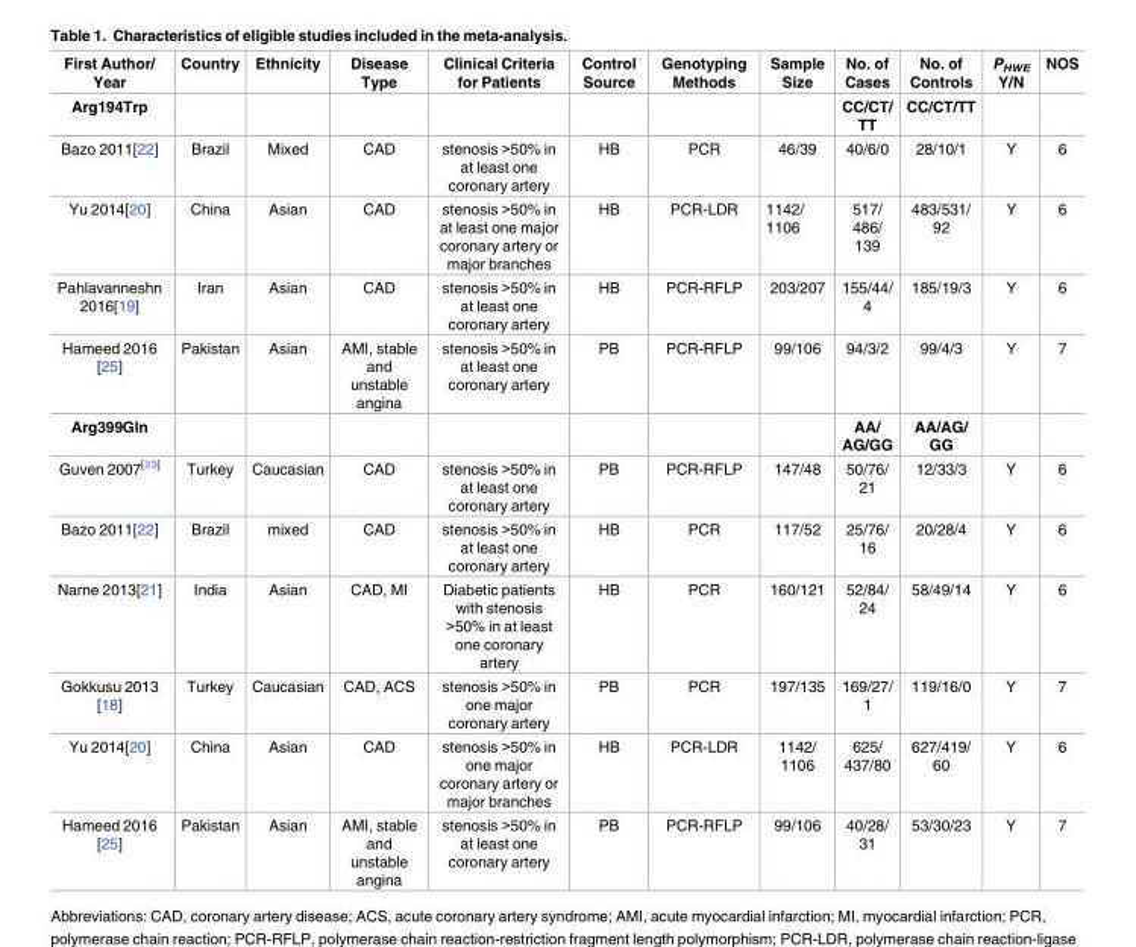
<table><thead><tr><td>First Author/ Year</td><td>Country</td><td>Ethnicity</td><td>Disease Type</td><td>Clinical Criteria for Patients</td><td>Control Source</td><td>Genotyping Methods</td><td>Sample Size</td><td>No. of Cases</td><td>No. of Controls</td><td>P<sub>HWE</sub> Y/N</td><td>NOS</td></tr></thead><tbody><tr><td>Arg194Trp</td><td></td><td></td><td></td><td></td><td></td><td></td><td></td><td>CC/CT/ TT</td><td>CC/CT/TT</td><td></td><td></td></tr><tr><td>Bazo 2011[22]</td><td>Brazil</td><td>Mixed</td><td>CAD</td><td>stenosis &gt;50% in at least one coronary artery</td><td>HB</td><td>PCR</td><td>46/39</td><td>40/6/0</td><td>28/10/1</td><td>Y</td><td>6</td></tr><tr><td>Yu 2014[20]</td><td>China</td><td>Asian</td><td>CAD</td><td>stenosis &gt;50% in at least one major coronary artery or major branches</td><td>HB</td><td>PCR-LDR</td><td>1142/ 1106</td><td>517/ 486/ 139</td><td>483/531/ 92</td><td>Y</td><td>6</td></tr><tr><td>Pahlavanneshn 2016[19]</td><td>Iran</td><td>Asian</td><td>CAD</td><td>stenosis &gt;50% in at least one coronary artery</td><td>HB</td><td>PCR-RFLP</td><td>203/207</td><td>155/44/ 4</td><td>185/19/3</td><td>Y</td><td>6</td></tr><tr><td>Hameed 2016 [25]</td><td>Pakistan</td><td>Asian</td><td>AMI, stable and unstable angina</td><td>stenosis &gt;50% in at least one coronary artery</td><td>PB</td><td>PCR-RFLP</td><td>99/106</td><td>94/3/2</td><td>99/4/3</td><td>Y</td><td>7</td></tr><tr><td>Arg399Gln</td><td></td><td></td><td></td><td></td><td></td><td></td><td></td><td>AA/ AG/GG</td><td>AA/AG/ GG</td><td></td><td></td></tr><tr><td>Guven 2007<sup>[23]</sup></td><td>Turkey</td><td>Caucasian</td><td>CAD</td><td>stenosis &gt;50% in at least one coronary artery</td><td>PB</td><td>PCR-RFLP</td><td>147/48</td><td>50/76/ 21</td><td>12/33/3</td><td>Y</td><td>6</td></tr><tr><td>Bazo 2011[22]</td><td>Brazil</td><td>mixed</td><td>CAD</td><td>stenosis &gt;50% in at least one coronary artery</td><td>HB</td><td>PCR</td><td>117/52</td><td>25/76/ 16</td><td>20/28/4</td><td>Y</td><td>6</td></tr><tr><td>Narne 2013[21]</td><td>India</td><td>Asian</td><td>CAD, MI</td><td>Diabetic patients with stenosis &gt;50% in at least one coronary artery</td><td>HB</td><td>PCR</td><td>160/121</td><td>52/84/ 24</td><td>58/49/14</td><td>Y</td><td>6</td></tr><tr><td>Gokkusu 2013 [18]</td><td>Turkey</td><td>Caucasian</td><td>CAD, ACS</td><td>stenosis &gt;50% in one major coronary artery</td><td>PB</td><td>PCR</td><td>197/135</td><td>169/27/ 1</td><td>119/16/0</td><td>Y</td><td>7</td></tr><tr><td>Yu 2014[20]</td><td>China</td><td>Asian</td><td>CAD</td><td>stenosis &gt;50% in one major coronary artery or major branches</td><td>HB</td><td>PCR-LDR</td><td>1142/ 1106</td><td>625/ 437/80</td><td>627/419/ 60</td><td>Y</td><td>6</td></tr><tr><td>Hameed 2016 [25]</td><td>Pakistan</td><td>Asian</td><td>AMI, stable and unstable angina</td><td>stenosis &gt;50% in at least one coronary artery</td><td>PB</td><td>PCR-RFLP</td><td>99/106</td><td>40/28/ 31</td><td>53/30/23</td><td>Y</td><td>7</td></tr></tbody></table>